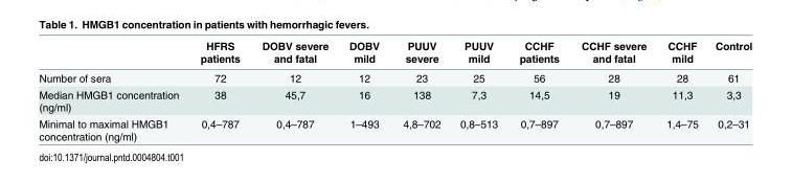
<table><thead><tr><td></td><td>HFRS patients</td><td>DOBV severe and fatal</td><td>DOBV mild</td><td>PUUV severe</td><td>PUUV mild</td><td>CCHF patients</td><td>CCHF severe and fatal</td><td>CCHF mild</td><td>Control</td></tr></thead><tbody><tr><td>Number of sera</td><td>72</td><td>12</td><td>12</td><td>23</td><td>25</td><td>56</td><td>28</td><td>28</td><td>61</td></tr><tr><td>Median HMGB1 concentration (ng/ml)</td><td>38</td><td>45,7</td><td>16</td><td>138</td><td>7,3</td><td>14,5</td><td>19</td><td>11,3</td><td>3,3</td></tr><tr><td>Minimal to maximal HMGB1 concentration (ng/ml)</td><td>0,4–787</td><td>0,4–787</td><td>1–493</td><td>4,8–702</td><td>0,8–513</td><td>0,7–897</td><td>0,7–897</td><td>1,4–75</td><td>0,2–31</td></tr></tbody></table>